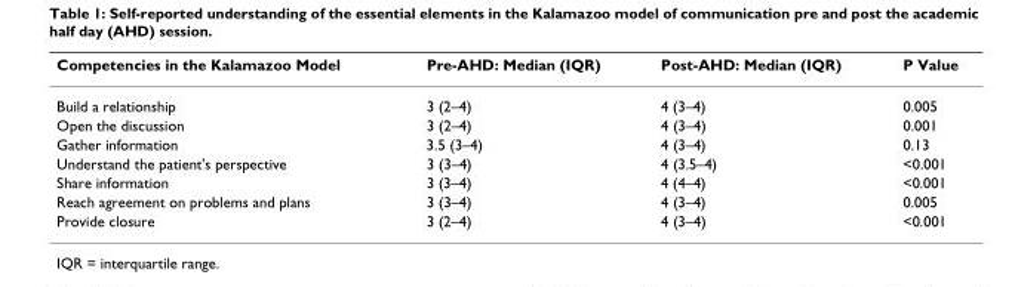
<table><thead><tr><td>Competencies in the Kalamazoo Model</td><td>Pre-AHD: Median (IQR)</td><td>Post-AHD: Median (IQR)</td><td>P Value</td></tr></thead><tbody><tr><td>Build a relationship</td><td>3 (2–4)</td><td>4 (3–4)</td><td>0.005</td></tr><tr><td>Open the discussion</td><td>3 (2–4)</td><td>4 (3–4)</td><td>0.001</td></tr><tr><td>Gather information</td><td>3.5 (3–4)</td><td>4 (3–4)</td><td>0.13</td></tr><tr><td>Understand the patient&#x27;s perspective</td><td>3 (3–4)</td><td>4 (3.5–4)</td><td>&lt;0.001</td></tr><tr><td>Share information</td><td>3 (3–4)</td><td>4 (4–4)</td><td>&lt;0.001</td></tr><tr><td>Reach agreement on problems and plans</td><td>3 (3–4)</td><td>4 (3–4)</td><td>0.005</td></tr><tr><td>Provide closure</td><td>3 (2–4)</td><td>4 (3–4)</td><td>&lt;0.001</td></tr></tbody></table>